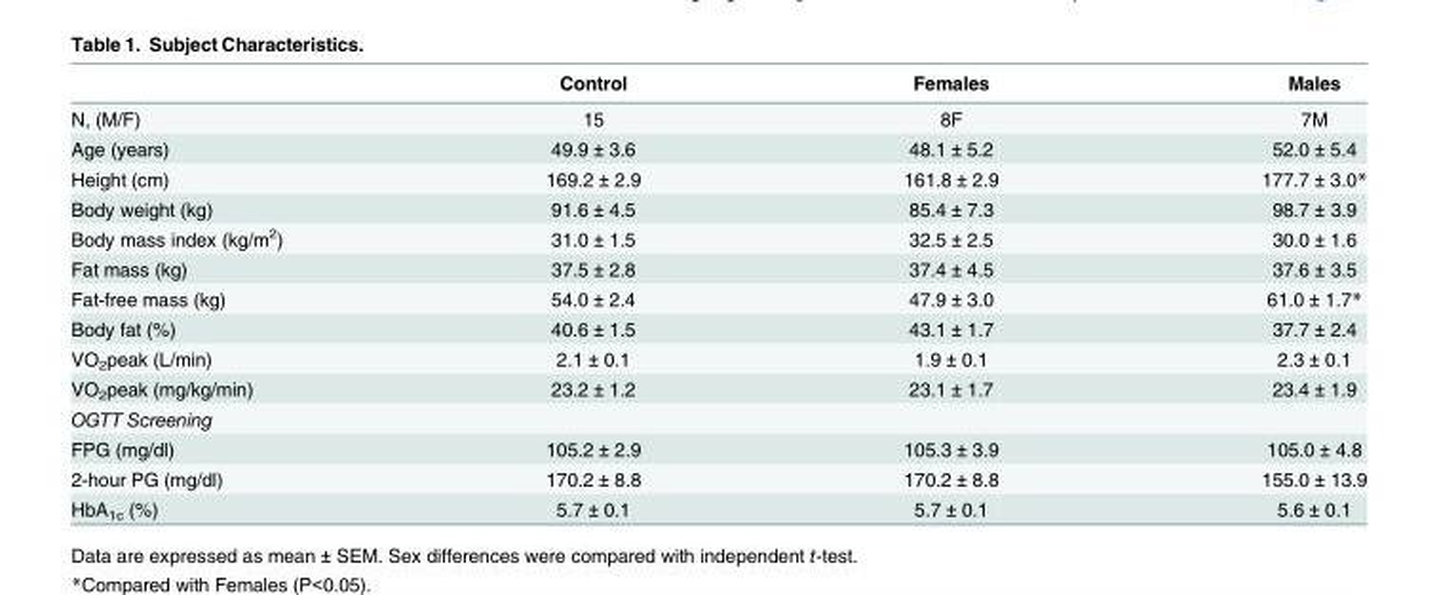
<table><thead><tr><td></td><td>Control</td><td>Females</td><td>Males</td></tr></thead><tbody><tr><td>N, (M/F)</td><td>15</td><td>8F</td><td>7M</td></tr><tr><td>Age (years)</td><td>49.9 ± 3.6</td><td>48.1 ± 5.2</td><td>52.0 ± 5.4</td></tr><tr><td>Height (cm)</td><td>169.2 ± 2.9</td><td>161.8 ± 2.9</td><td>177.7 ± 3.0*</td></tr><tr><td>Body weight (kg)</td><td>91.6 ± 4.5</td><td>85.4 ± 7.3</td><td>98.7 ± 3.9</td></tr><tr><td>Body mass index (kg/m<sup>2</sup>)</td><td>31.0 ± 1.5</td><td>32.5 ± 2.5</td><td>30.0 ± 1.6</td></tr><tr><td>Fat mass (kg)</td><td>37.5 ± 2.8</td><td>37.4 ± 4.5</td><td>37.6 ± 3.5</td></tr><tr><td>Fat-free mass (kg)</td><td>54.0 ± 2.4</td><td>47.9 ± 3.0</td><td>61.0 ± 1.7*</td></tr><tr><td>Body fat (%)</td><td>40.6 ± 1.5</td><td>43.1 ± 1.7</td><td>37.7 ± 2.4</td></tr><tr><td>VO<sub>2</sub>peak (L/min)</td><td>2.1 ± 0.1</td><td>1.9 ± 0.1</td><td>2.3 ± 0.1</td></tr><tr><td>VO<sub>2</sub>peak (mg/kg/min)</td><td>23.2 ± 1.2</td><td>23.1 ± 1.7</td><td>23.4 ± 1.9</td></tr><tr><td colspan="4">OGTT Screening</td></tr><tr><td>FPG (mg/dl)</td><td>105.2 ± 2.9</td><td>105.3 ± 3.9</td><td>105.0 ± 4.8</td></tr><tr><td>2-hour PG (mg/dl)</td><td>170.2 ± 8.8</td><td>170.2 ± 8.8</td><td>155.0 ± 13.9</td></tr><tr><td>HbA<sub>1c</sub> (%)</td><td>5.7 ± 0.1</td><td>5.7 ± 0.1</td><td>5.6 ± 0.1</td></tr></tbody></table>